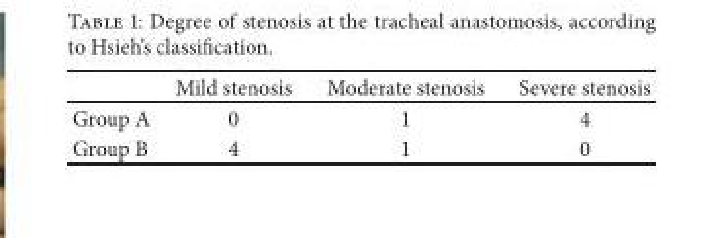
<table><thead><tr><td></td><td>Mild stenosis</td><td>Moderate stenosis</td><td>Severe stenosis</td></tr></thead><tbody><tr><td>Group A</td><td>0</td><td>1</td><td>4</td></tr><tr><td>Group B</td><td>4</td><td>1</td><td>0</td></tr></tbody></table>